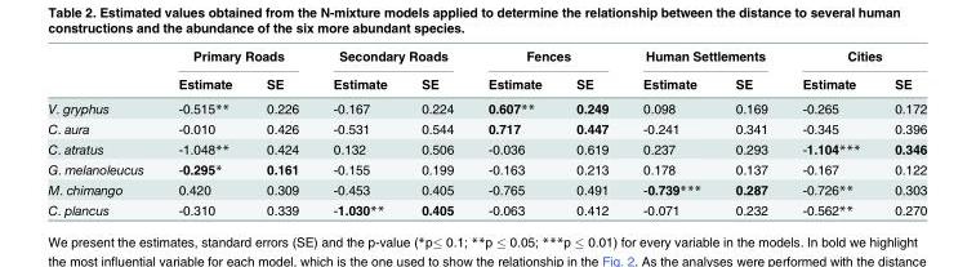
<table><thead><tr><td rowspan="2"></td><td colspan="2">Primary Roads</td><td colspan="2">Secondary Roads</td><td colspan="2">Fences</td><td colspan="2">Human Settlements</td><td colspan="2">Cities</td></tr><tr><td>Estimate</td><td>SE</td><td>Estimate</td><td>SE</td><td>Estimate</td><td>SE</td><td>Estimate</td><td>SE</td><td>Estimate</td><td>SE</td></tr></thead><tbody><tr><td>V. gryphus</td><td>-0.515**</td><td>0.226</td><td>-0.167</td><td>0.224</td><td>0.607**</td><td>0.249</td><td>0.098</td><td>0.169</td><td>-0.265</td><td>0.172</td></tr><tr><td>C. aura</td><td>-0.010</td><td>0.426</td><td>-0.531</td><td>0.544</td><td>0.717</td><td>0.447</td><td>-0.241</td><td>0.341</td><td>-0.345</td><td>0.396</td></tr><tr><td>C. atratus</td><td>-1.048**</td><td>0.424</td><td>0.132</td><td>0.506</td><td>-0.036</td><td>0.619</td><td>0.237</td><td>0.293</td><td>-1.104***</td><td>0.346</td></tr><tr><td>G. melanoleucus</td><td>-0.295*</td><td>0.161</td><td>-0.155</td><td>0.199</td><td>-0.163</td><td>0.213</td><td>0.178</td><td>0.137</td><td>-0.167</td><td>0.122</td></tr><tr><td>M. chimango</td><td>0.420</td><td>0.309</td><td>-0.453</td><td>0.405</td><td>-0.765</td><td>0.491</td><td>-0.739***</td><td>0.287</td><td>-0.726**</td><td>0.303</td></tr><tr><td>C. plancus</td><td>-0.310</td><td>0.339</td><td>-1.030**</td><td>0.405</td><td>-0.063</td><td>0.412</td><td>-0.071</td><td>0.232</td><td>-0.562**</td><td>0.270</td></tr></tbody></table>